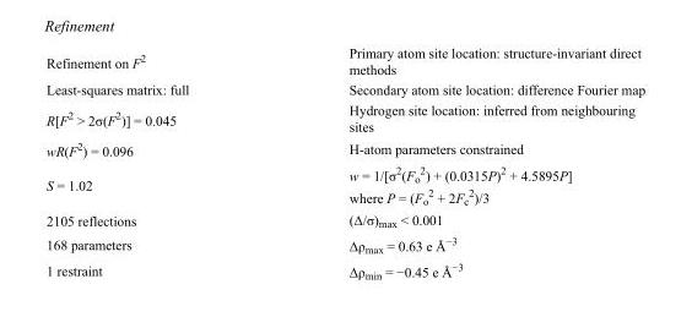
<table><tbody><tr><td>Refinement on F<sup>2</sup></td><td>Primary atom site location: structure-invariant direct methods</td></tr><tr><td>Least-squares matrix: full</td><td>Secondary atom site location: difference Fourier map</td></tr><tr><td>R[F<sup>2</sup> &gt; 2σ(F<sup>2</sup>)] = 0.045</td><td>Hydrogen site location: inferred from neighbouring sites</td></tr><tr><td>wR(F<sup>2</sup>) = 0.096</td><td>H-atom parameters constrained</td></tr><tr><td>S = 1.02</td><td>w = 1/[σ<sup>2</sup>(F<sub>o</sub> <sup>2</sup>) + (0.0315P)<sup>2</sup> + 4.5895P] where P = (F<sub>o</sub> <sup>2</sup> + 2F<sub>c</sub> <sup>2</sup>)/3</td></tr><tr><td>2105 reflections</td><td>(Δ/σ)<sub>max</sub> &lt; 0.001</td></tr><tr><td>168 parameters</td><td>Δρ<sub>max</sub> = 0.63 e Å<sup>−3</sup></td></tr><tr><td>1 restraint</td><td>Δρ<sub>min</sub> = −0.45 e Å<sup>−3</sup></td></tr></tbody></table>